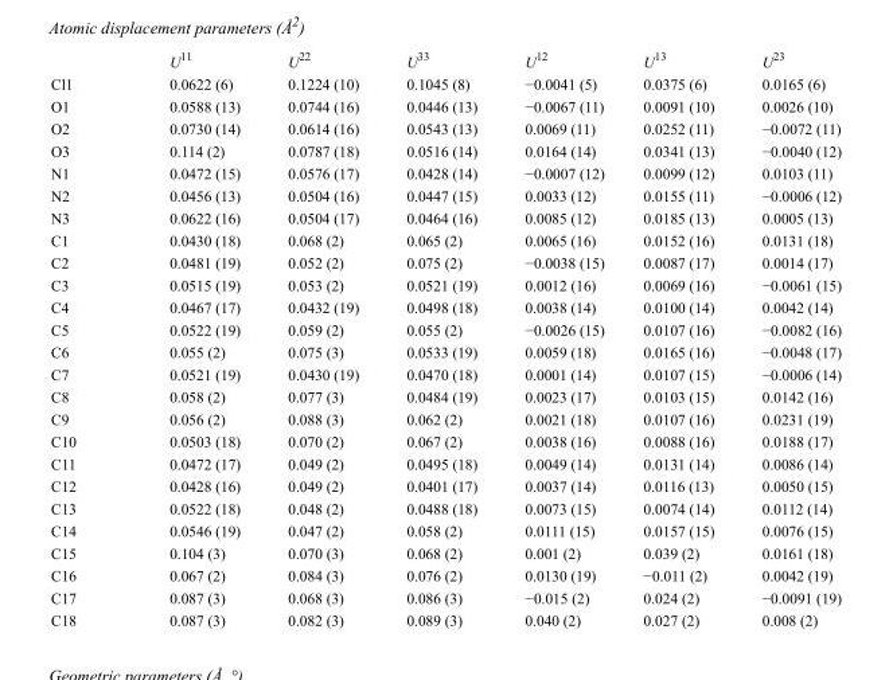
<table><thead><tr><td></td><td>U<sup>11</sup></td><td>U<sup>22</sup></td><td>U<sup>33</sup></td><td>U<sup>12</sup></td><td>U<sup>13</sup></td><td>U<sup>23</sup></td></tr></thead><tbody><tr><td>Cl1</td><td>0.0622 (6)</td><td>0.1224 (10)</td><td>0.1045 (8)</td><td>−0.0041 (5)</td><td>0.0375 (6)</td><td>0.0165 (6)</td></tr><tr><td>O1</td><td>0.0588 (13)</td><td>0.0744 (16)</td><td>0.0446 (13)</td><td>−0.0067 (11)</td><td>0.0091 (10)</td><td>0.0026 (10)</td></tr><tr><td>O2</td><td>0.0730 (14)</td><td>0.0614 (16)</td><td>0.0543 (13)</td><td>0.0069 (11)</td><td>0.0252 (11)</td><td>−0.0072 (11)</td></tr><tr><td>O3</td><td>0.114 (2)</td><td>0.0787 (18)</td><td>0.0516 (14)</td><td>0.0164 (14)</td><td>0.0341 (13)</td><td>−0.0040 (12)</td></tr><tr><td>N1</td><td>0.0472 (15)</td><td>0.0576 (17)</td><td>0.0428 (14)</td><td>−0.0007 (12)</td><td>0.0099 (12)</td><td>0.0103 (11)</td></tr><tr><td>N2</td><td>0.0456 (13)</td><td>0.0504 (16)</td><td>0.0447 (15)</td><td>0.0033 (12)</td><td>0.0155 (11)</td><td>−0.0006 (12)</td></tr><tr><td>N3</td><td>0.0622 (16)</td><td>0.0504 (17)</td><td>0.0464 (16)</td><td>0.0085 (12)</td><td>0.0185 (13)</td><td>0.0005 (13)</td></tr><tr><td>C1</td><td>0.0430 (18)</td><td>0.068 (2)</td><td>0.065 (2)</td><td>0.0065 (16)</td><td>0.0152 (16)</td><td>0.0131 (18)</td></tr><tr><td>C2</td><td>0.0481 (19)</td><td>0.052 (2)</td><td>0.075 (2)</td><td>−0.0038 (15)</td><td>0.0087 (17)</td><td>0.0014 (17)</td></tr><tr><td>C3</td><td>0.0515 (19)</td><td>0.053 (2)</td><td>0.0521 (19)</td><td>0.0012 (16)</td><td>0.0069 (16)</td><td>−0.0061 (15)</td></tr><tr><td>C4</td><td>0.0467 (17)</td><td>0.0432 (19)</td><td>0.0498 (18)</td><td>0.0038 (14)</td><td>0.0100 (14)</td><td>0.0042 (14)</td></tr><tr><td>C5</td><td>0.0522 (19)</td><td>0.059 (2)</td><td>0.055 (2)</td><td>−0.0026 (15)</td><td>0.0107 (16)</td><td>−0.0082 (16)</td></tr><tr><td>C6</td><td>0.055 (2)</td><td>0.075 (3)</td><td>0.0533 (19)</td><td>0.0059 (18)</td><td>0.0165 (16)</td><td>−0.0048 (17)</td></tr><tr><td>C7</td><td>0.0521 (19)</td><td>0.0430 (19)</td><td>0.0470 (18)</td><td>0.0001 (14)</td><td>0.0107 (15)</td><td>−0.0006 (14)</td></tr><tr><td>C8</td><td>0.058 (2)</td><td>0.077 (3)</td><td>0.0484 (19)</td><td>0.0023 (17)</td><td>0.0103 (15)</td><td>0.0142 (16)</td></tr><tr><td>C9</td><td>0.056 (2)</td><td>0.088 (3)</td><td>0.062 (2)</td><td>0.0021 (18)</td><td>0.0107 (16)</td><td>0.0231 (19)</td></tr><tr><td>C10</td><td>0.0503 (18)</td><td>0.070 (2)</td><td>0.067 (2)</td><td>0.0038 (16)</td><td>0.0088 (16)</td><td>0.0188 (17)</td></tr><tr><td>C11</td><td>0.0472 (17)</td><td>0.049 (2)</td><td>0.0495 (18)</td><td>0.0049 (14)</td><td>0.0131 (14)</td><td>0.0086 (14)</td></tr><tr><td>C12</td><td>0.0428 (16)</td><td>0.049 (2)</td><td>0.0401 (17)</td><td>0.0037 (14)</td><td>0.0116 (13)</td><td>0.0050 (15)</td></tr><tr><td>C13</td><td>0.0522 (18)</td><td>0.048 (2)</td><td>0.0488 (18)</td><td>0.0073 (15)</td><td>0.0074 (14)</td><td>0.0112 (14)</td></tr><tr><td>C14</td><td>0.0546 (19)</td><td>0.047 (2)</td><td>0.058 (2)</td><td>0.0111 (15)</td><td>0.0157 (15)</td><td>0.0076 (15)</td></tr><tr><td>C15</td><td>0.104 (3)</td><td>0.070 (3)</td><td>0.068 (2)</td><td>0.001 (2)</td><td>0.039 (2)</td><td>0.0161 (18)</td></tr><tr><td>C16</td><td>0.067 (2)</td><td>0.084 (3)</td><td>0.076 (2)</td><td>0.0130 (19)</td><td>−0.011 (2)</td><td>0.0042 (19)</td></tr><tr><td>C17</td><td>0.087 (3)</td><td>0.068 (3)</td><td>0.086 (3)</td><td>−0.015 (2)</td><td>0.024 (2)</td><td>−0.0091 (19)</td></tr><tr><td>C18</td><td>0.087 (3)</td><td>0.082 (3)</td><td>0.089 (3)</td><td>0.040 (2)</td><td>0.027 (2)</td><td>0.008 (2)</td></tr></tbody></table>